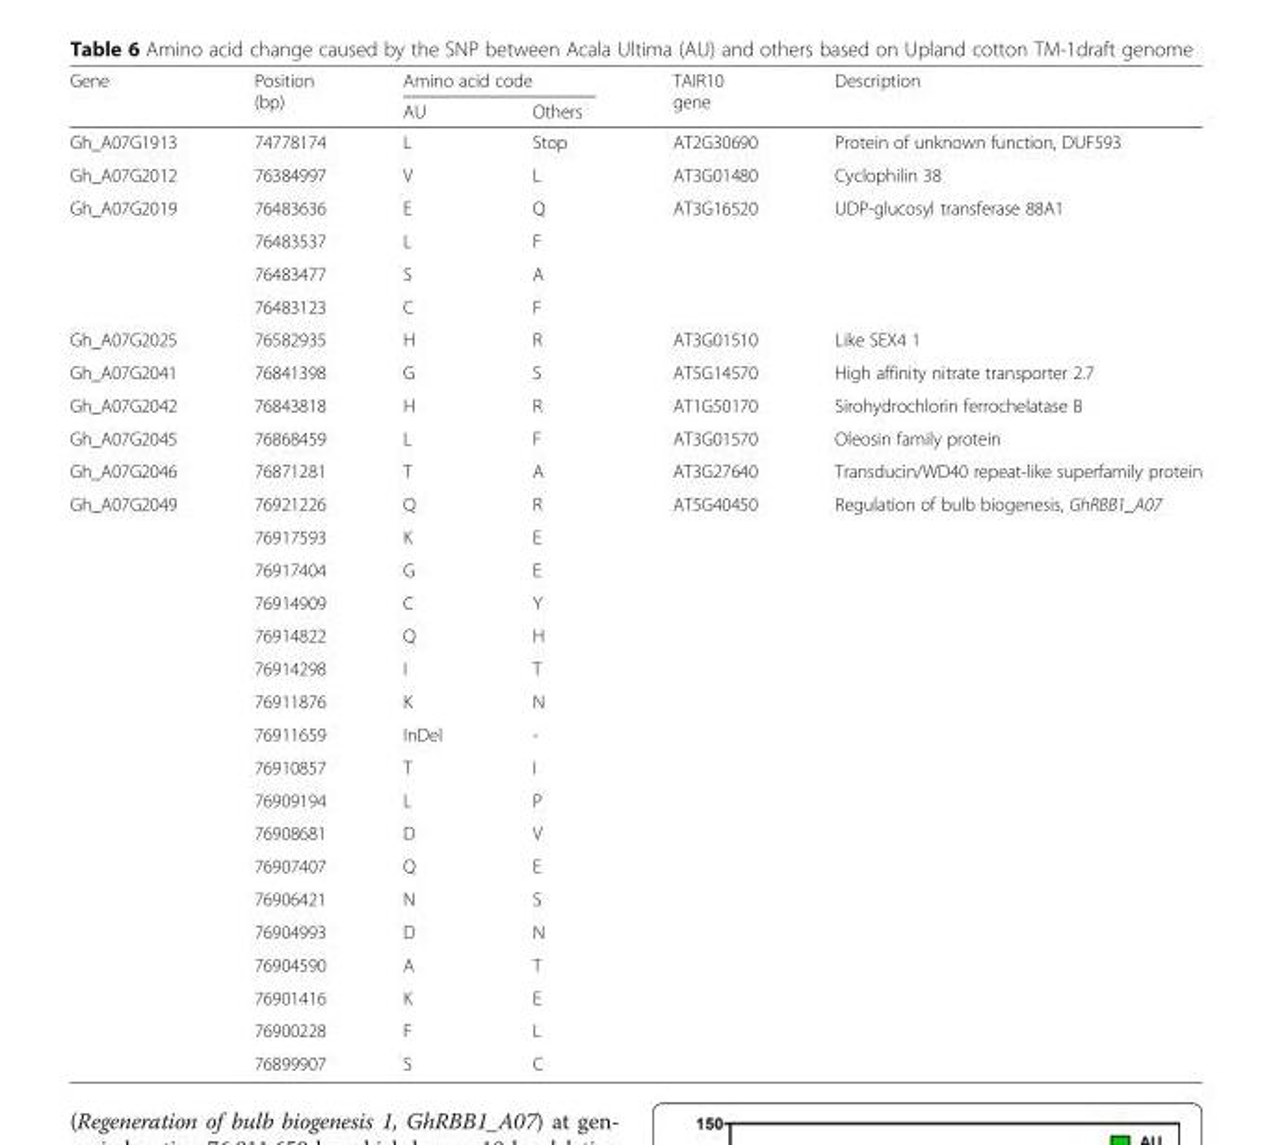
<table><thead><tr><td rowspan="2">Gene</td><td rowspan="2">Position (bp)</td><td colspan="2">Amino acid code</td><td rowspan="2">TAIR10 gene</td><td rowspan="2">Description</td></tr><tr><td>AU</td><td>Others</td></tr></thead><tbody><tr><td>Gh_A07G1913</td><td>74778174</td><td>L</td><td>Stop</td><td>AT2G30690</td><td>Protein of unknown function, DUF593</td></tr><tr><td>Gh_A07G2012</td><td>76384997</td><td>V</td><td>L</td><td>AT3G01480</td><td>Cyclophilin 38</td></tr><tr><td rowspan="4">Gh_A07G2019</td><td>76483636</td><td>E</td><td>Q</td><td rowspan="4">AT3G16520</td><td rowspan="4">UDP-glucosyl transferase 88A1</td></tr><tr><td>76483537</td><td>L</td><td>F</td></tr><tr><td>76483477</td><td>S</td><td>A</td></tr><tr><td>76483123</td><td>C</td><td>F</td></tr><tr><td>Gh_A07G2025</td><td>76582935</td><td>H</td><td>R</td><td>AT3G01510</td><td>Like SEX4 1</td></tr><tr><td>Gh_A07G2041</td><td>76841398</td><td>G</td><td>S</td><td>AT5G14570</td><td>High affinity nitrate transporter 2.7</td></tr><tr><td>Gh_A07G2042</td><td>76843818</td><td>H</td><td>R</td><td>AT1G50170</td><td>Sirohydrochlorin ferrochelatase B</td></tr><tr><td>Gh_A07G2045</td><td>76868459</td><td>L</td><td>F</td><td>AT3G01570</td><td>Oleosin family protein</td></tr><tr><td>Gh_A07G2046</td><td>76871281</td><td>T</td><td>A</td><td>AT3G27640</td><td>Transducin/WD40 repeat-like superfamily protein</td></tr><tr><td rowspan="18">Gh_A07G2049</td><td>76921226</td><td>Q</td><td>R</td><td rowspan="18">AT5G40450</td><td rowspan="18">Regulation of bulb biogenesis, GhRBB1_A07</td></tr><tr><td>76917593</td><td>K</td><td>E</td></tr><tr><td>76917404</td><td>G</td><td>E</td></tr><tr><td>76914909</td><td>C</td><td>Y</td></tr><tr><td>76914822</td><td>Q</td><td>H</td></tr><tr><td>76914298</td><td>I</td><td>T</td></tr><tr><td>76911876</td><td>K</td><td>N</td></tr><tr><td>76911659</td><td>InDel</td><td>-</td></tr><tr><td>76910857</td><td>T</td><td>I</td></tr><tr><td>76909194</td><td>L</td><td>P</td></tr><tr><td>76908681</td><td>D</td><td>V</td></tr><tr><td>76907407</td><td>Q</td><td>E</td></tr><tr><td>76906421</td><td>N</td><td>S</td></tr><tr><td>76904993</td><td>D</td><td>N</td></tr><tr><td>76904590</td><td>A</td><td>T</td></tr><tr><td>76901416</td><td>K</td><td>E</td></tr><tr><td>76900228</td><td>F</td><td>L</td></tr><tr><td>76899907</td><td>S</td><td>C</td></tr></tbody></table>